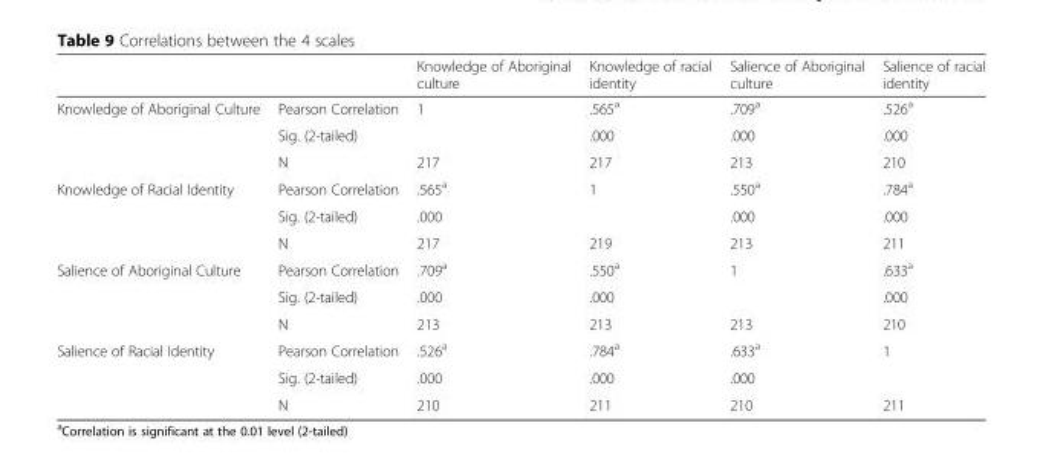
<table><thead><tr><td></td><td></td><td>Knowledge of Aboriginal culture</td><td>Knowledge of racial identity</td><td>Salience of Aboriginal culture</td><td>Salience of racial identity</td></tr></thead><tbody><tr><td rowspan="3">Knowledge of Aboriginal Culture</td><td>Pearson Correlation</td><td>1</td><td>.565<sup>a</sup></td><td>.709<sup>a</sup></td><td>.526<sup>a</sup></td></tr><tr><td>Sig. (2-tailed)</td><td></td><td>.000</td><td>.000</td><td>.000</td></tr><tr><td>N</td><td>217</td><td>217</td><td>213</td><td>210</td></tr><tr><td rowspan="3">Knowledge of Racial Identity</td><td>Pearson Correlation</td><td>.565<sup>a</sup></td><td>1</td><td>.550<sup>a</sup></td><td>.784<sup>a</sup></td></tr><tr><td>Sig. (2-tailed)</td><td>.000</td><td></td><td>.000</td><td>.000</td></tr><tr><td>N</td><td>217</td><td>219</td><td>213</td><td>211</td></tr><tr><td rowspan="3">Salience of Aboriginal Culture</td><td>Pearson Correlation</td><td>.709<sup>a</sup></td><td>.550<sup>a</sup></td><td>1</td><td>.633<sup>a</sup></td></tr><tr><td>Sig. (2-tailed)</td><td>.000</td><td>.000</td><td></td><td>.000</td></tr><tr><td>N</td><td>213</td><td>213</td><td>213</td><td>210</td></tr><tr><td rowspan="3">Salience of Racial Identity</td><td>Pearson Correlation</td><td>.526<sup>a</sup></td><td>.784<sup>a</sup></td><td>.633<sup>a</sup></td><td>1</td></tr><tr><td>Sig. (2-tailed)</td><td>.000</td><td>.000</td><td>.000</td><td></td></tr><tr><td>N</td><td>210</td><td>211</td><td>210</td><td>211</td></tr></tbody></table>